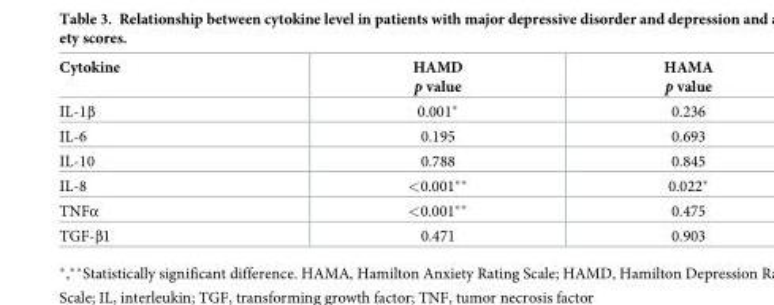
<table><thead><tr><td>Cytokine</td><td>HAMD p value</td><td>HAMA p value</td></tr></thead><tbody><tr><td>IL-1β</td><td>0.001*</td><td>0.236</td></tr><tr><td>IL-6</td><td>0.195</td><td>0.693</td></tr><tr><td>IL-10</td><td>0.788</td><td>0.845</td></tr><tr><td>IL-8</td><td>&lt;0.001**</td><td>0.022*</td></tr><tr><td>TNFα</td><td>&lt;0.001**</td><td>0.475</td></tr><tr><td>TGF-β1</td><td>0.471</td><td>0.903</td></tr></tbody></table>